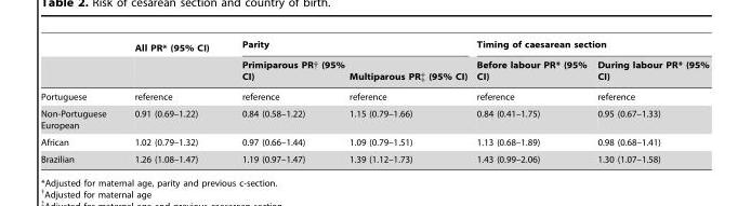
<table><thead><tr><td rowspan="2"></td><td rowspan="2">All PR* (95% CI)</td><td colspan="2">Parity</td><td colspan="2">Timing of caesarean section</td></tr><tr><td>Primiparous PR† (95% CI)</td><td>Multiparous PR‡ (95% CI)</td><td>Before labour PR* (95% CI)</td><td>During labour PR* (95% CI)</td></tr></thead><tbody><tr><td>Portuguese</td><td>reference</td><td>reference</td><td>reference</td><td>reference</td><td>reference</td></tr><tr><td>Non-Portuguese European</td><td>0.91 (0.69–1.22)</td><td>0.84 (0.58–1.22)</td><td>1.15 (0.79–1.66)</td><td>0.84 (0.41–1.75)</td><td>0.95 (0.67–1.33)</td></tr><tr><td>African</td><td>1.02 (0.79–1.32)</td><td>0.97 (0.66–1.44)</td><td>1.09 (0.79–1.51)</td><td>1.13 (0.68–1.89)</td><td>0.98 (0.68–1.41)</td></tr><tr><td>Brazilian</td><td>1.26 (1.08–1.47)</td><td>1.19 (0.97–1.47)</td><td>1.39 (1.12–1.73)</td><td>1.43 (0.99–2.06)</td><td>1.30 (1.07–1.58)</td></tr></tbody></table>